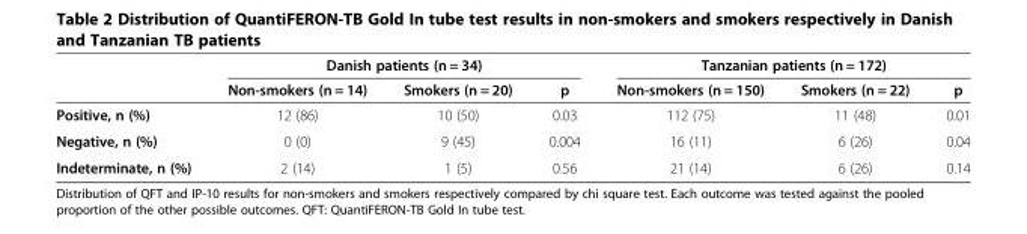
<table><thead><tr><td rowspan="2"></td><td colspan="3">Danish patients (n = 34)</td><td colspan="3">Tanzanian patients (n = 172)</td></tr><tr><td>Non-smokers (n = 14)</td><td>Smokers (n = 20)</td><td>p</td><td>Non-smokers (n = 150)</td><td>Smokers (n = 22)</td><td>p</td></tr></thead><tbody><tr><td>Positive, n (%)</td><td>12 (86)</td><td>10 (50)</td><td>0.03</td><td>112 (75)</td><td>11 (48)</td><td>0.01</td></tr><tr><td>Negative, n (%)</td><td>0 (0)</td><td>9 (45)</td><td>0.004</td><td>16 (11)</td><td>6 (26)</td><td>0.04</td></tr><tr><td>Indeterminate, n (%)</td><td>2 (14)</td><td>1 (5)</td><td>0.56</td><td>21 (14)</td><td>6 (26)</td><td>0.14</td></tr></tbody></table>